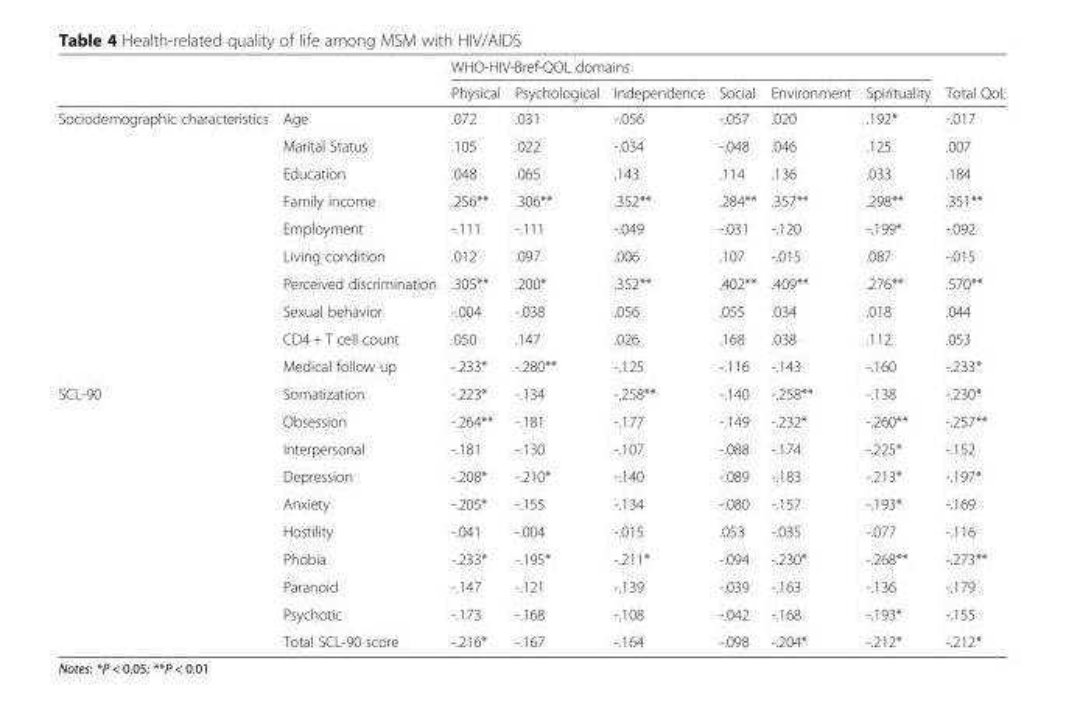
<table><thead><tr><td rowspan="2"></td><td rowspan="2"></td><td colspan="6">WHO-HIV-Bref-QOL domains</td><td rowspan="2">Total QoL</td></tr><tr><td>Physical</td><td>Psychological</td><td>Independence</td><td>Social</td><td>Environment</td><td>Spirituality</td></tr></thead><tbody><tr><td rowspan="10">Sociodemographic characteristics</td><td>Age</td><td>.072</td><td>.031</td><td>-.056</td><td>-.057</td><td>.020</td><td>.192*</td><td>-.017</td></tr><tr><td>Marital Status</td><td>.105</td><td>.022</td><td>-.034</td><td>-.048</td><td>.046</td><td>.125</td><td>.007</td></tr><tr><td>Education</td><td>.048</td><td>.065</td><td>.143</td><td>.114</td><td>.136</td><td>.033</td><td>.184</td></tr><tr><td>Family income</td><td>.256**</td><td>.306**</td><td>.352**</td><td>.284**</td><td>.357**</td><td>.298**</td><td>.351**</td></tr><tr><td>Employment</td><td>-.111</td><td>-.111</td><td>-.049</td><td>-.031</td><td>-.120</td><td>-.199*</td><td>-.092</td></tr><tr><td>Living condition</td><td>.012</td><td>.097</td><td>.006</td><td>.107</td><td>-.015</td><td>.087</td><td>-.015</td></tr><tr><td>Perceived discrimination</td><td>.305**</td><td>.200*</td><td>.352**</td><td>.402**</td><td>.409**</td><td>.276**</td><td>.570**</td></tr><tr><td>Sexual behavior</td><td>-.004</td><td>-.038</td><td>.056</td><td>.055</td><td>.034</td><td>.018</td><td>.044</td></tr><tr><td>CD4 + T cell count</td><td>.050</td><td>.147</td><td>.026</td><td>.168</td><td>.038</td><td>.112</td><td>.053</td></tr><tr><td>Medical follow up</td><td>-.233*</td><td>-.280**</td><td>-.125</td><td>-.116</td><td>-.143</td><td>-.160</td><td>-.233*</td></tr><tr><td rowspan="10">SCL-90</td><td>Somatization</td><td>-.223*</td><td>-.134</td><td>-.258**</td><td>-.140</td><td>-.258**</td><td>-.138</td><td>-.230*</td></tr><tr><td>Obsession</td><td>-.264**</td><td>-.181</td><td>-.177</td><td>-.149</td><td>-.232*</td><td>-.260**</td><td>-.257**</td></tr><tr><td>Interpersonal</td><td>-.181</td><td>-.130</td><td>-.107</td><td>-.088</td><td>-.174</td><td>-.225*</td><td>-.152</td></tr><tr><td>Depression</td><td>-.208*</td><td>-.210*</td><td>-.140</td><td>-.089</td><td>-.183</td><td>-.213*</td><td>-.197*</td></tr><tr><td>Anxiety</td><td>-.205*</td><td>-.155</td><td>-.134</td><td>-.080</td><td>-.157</td><td>-.193*</td><td>-.169</td></tr><tr><td>Hostility</td><td>-.041</td><td>-.004</td><td>-.015</td><td>.053</td><td>-.035</td><td>-.077</td><td>-.116</td></tr><tr><td>Phobia</td><td>-.233*</td><td>-.195*</td><td>-.211*</td><td>-.094</td><td>-.230*</td><td>-.268**</td><td>-.273**</td></tr><tr><td>Paranoid</td><td>-.147</td><td>-.121</td><td>-.139</td><td>-.039</td><td>-.163</td><td>-.136</td><td>-.179</td></tr><tr><td>Psychotic</td><td>-.173</td><td>-.168</td><td>-.108</td><td>-.042</td><td>-.168</td><td>-.193*</td><td>-.155</td></tr><tr><td>Total SCL-90 score</td><td>-.216*</td><td>-.167</td><td>-.164</td><td>-.098</td><td>-.204*</td><td>-.212*</td><td>-.212*</td></tr></tbody></table>